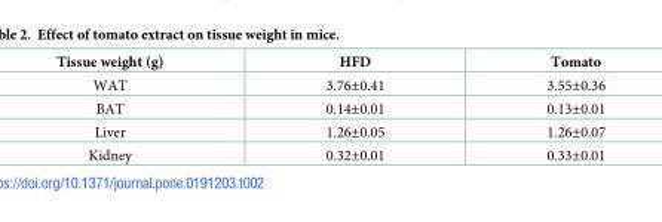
<table><thead><tr><td>Tissue weight (g)</td><td>HFD</td><td>Tomato</td></tr></thead><tbody><tr><td>WAT</td><td>3.76±0.41</td><td>3.55±0.36</td></tr><tr><td>BAT</td><td>0.14±0.01</td><td>0.13±0.01</td></tr><tr><td>Liver</td><td>1.26±0.05</td><td>1.26±0.07</td></tr><tr><td>Kidney</td><td>0.32±0.01</td><td>0.33±0.01</td></tr></tbody></table>